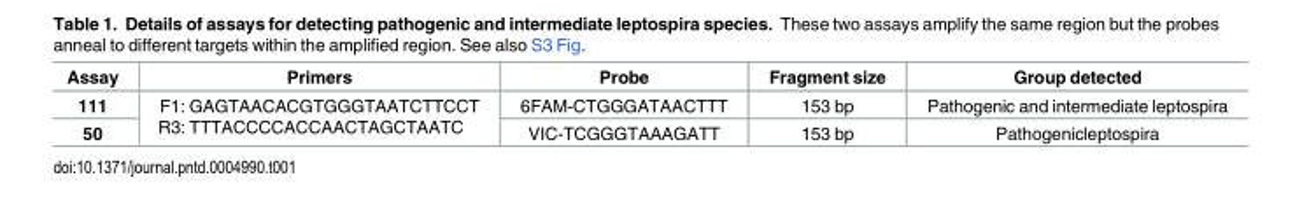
<table><thead><tr><td>Assay</td><td>Primers</td><td>Probe</td><td>Fragment size</td><td>Group detected</td></tr></thead><tbody><tr><td>111</td><td rowspan="2">F1: GAGTAACACGTGGGTAATCTTCCT R3: TTTACCCCACCAACTAGCTAATC</td><td>6FAM-CTGGGATAACTTT</td><td>153 bp</td><td>Pathogenic and intermediate leptospira</td></tr><tr><td>50</td><td>VIC-TCGGGTAAAGATT</td><td>153 bp</td><td>Pathogenicleptospira</td></tr></tbody></table>